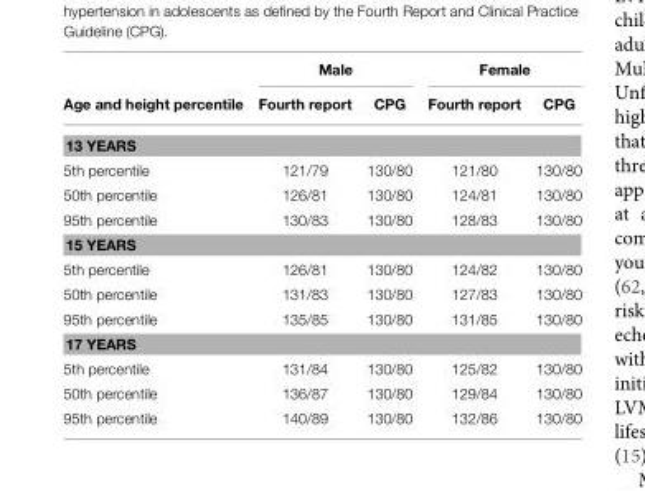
<table><thead><tr><td rowspan="2">Age and height percentile</td><td colspan="2">Male</td><td colspan="2">Female</td></tr><tr><td>Fourth report</td><td>CPG</td><td>Fourth report</td><td>CPG</td></tr></thead><tbody><tr><td colspan="5">13 YEARS</td></tr><tr><td>5th percentile</td><td>121/79</td><td>130/80</td><td>121/80</td><td>130/80</td></tr><tr><td>50th percentile</td><td>126/81</td><td>130/80</td><td>124/81</td><td>130/80</td></tr><tr><td>95th percentile</td><td>130/83</td><td>130/80</td><td>128/83</td><td>130/80</td></tr><tr><td colspan="5">15 YEARS</td></tr><tr><td>5th percentile</td><td>126/81</td><td>130/80</td><td>124/82</td><td>130/80</td></tr><tr><td>50th percentile</td><td>131/83</td><td>130/80</td><td>127/83</td><td>130/80</td></tr><tr><td>95th percentile</td><td>135/85</td><td>130/80</td><td>131/85</td><td>130/80</td></tr><tr><td colspan="5">17 YEARS</td></tr><tr><td>5th percentile</td><td>131/84</td><td>130/80</td><td>125/82</td><td>130/80</td></tr><tr><td>50th percentile</td><td>136/87</td><td>130/80</td><td>129/84</td><td>130/80</td></tr><tr><td>95th percentile</td><td>140/89</td><td>130/80</td><td>132/86</td><td>130/80</td></tr></tbody></table>